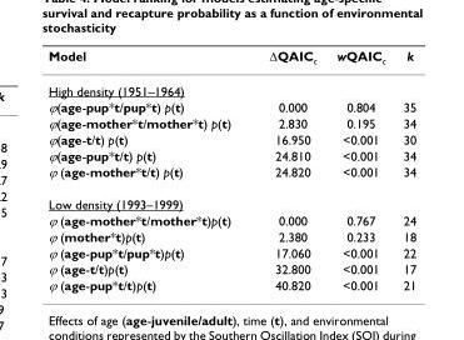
<table><thead><tr><td>Model</td><td>ΔQAIC<sub>c</sub></td><td>wQAIC<sub>c</sub></td><td>k</td></tr></thead><tbody><tr><td colspan="4">High density (1951–1964)</td></tr><tr><td>ϕ(age-pup*t/pup*t) p(t)</td><td>0.000</td><td>0.804</td><td>35</td></tr><tr><td>ϕ(age-mother*t/mother*t) p(t)</td><td>2.830</td><td>0.195</td><td>34</td></tr><tr><td>ϕ(age-t/t) p(t)</td><td>16.950</td><td>&lt;0.001</td><td>30</td></tr><tr><td>ϕ(age-pup*t/t) p(t)</td><td>24.810</td><td>&lt;0.001</td><td>34</td></tr><tr><td>ϕ (age-mother*t/t) p(t)</td><td>24.820</td><td>&lt;0.001</td><td>34</td></tr><tr><td colspan="4">Low density (1993–1999)</td></tr><tr><td>ϕ (age-mother*t/mother*t)p(t)</td><td>0.000</td><td>0.767</td><td>24</td></tr><tr><td>ϕ (mother*t)p(t)</td><td>2.380</td><td>0.233</td><td>18</td></tr><tr><td>ϕ (age-pup*t/pup*t)p(t)</td><td>17.060</td><td>&lt;0.001</td><td>22</td></tr><tr><td>ϕ (age-t/t)p(t)</td><td>32.800</td><td>&lt;0.001</td><td>17</td></tr><tr><td>ϕ (age-pup*t/t)p(t)</td><td>40.820</td><td>&lt;0.001</td><td>21</td></tr></tbody></table>